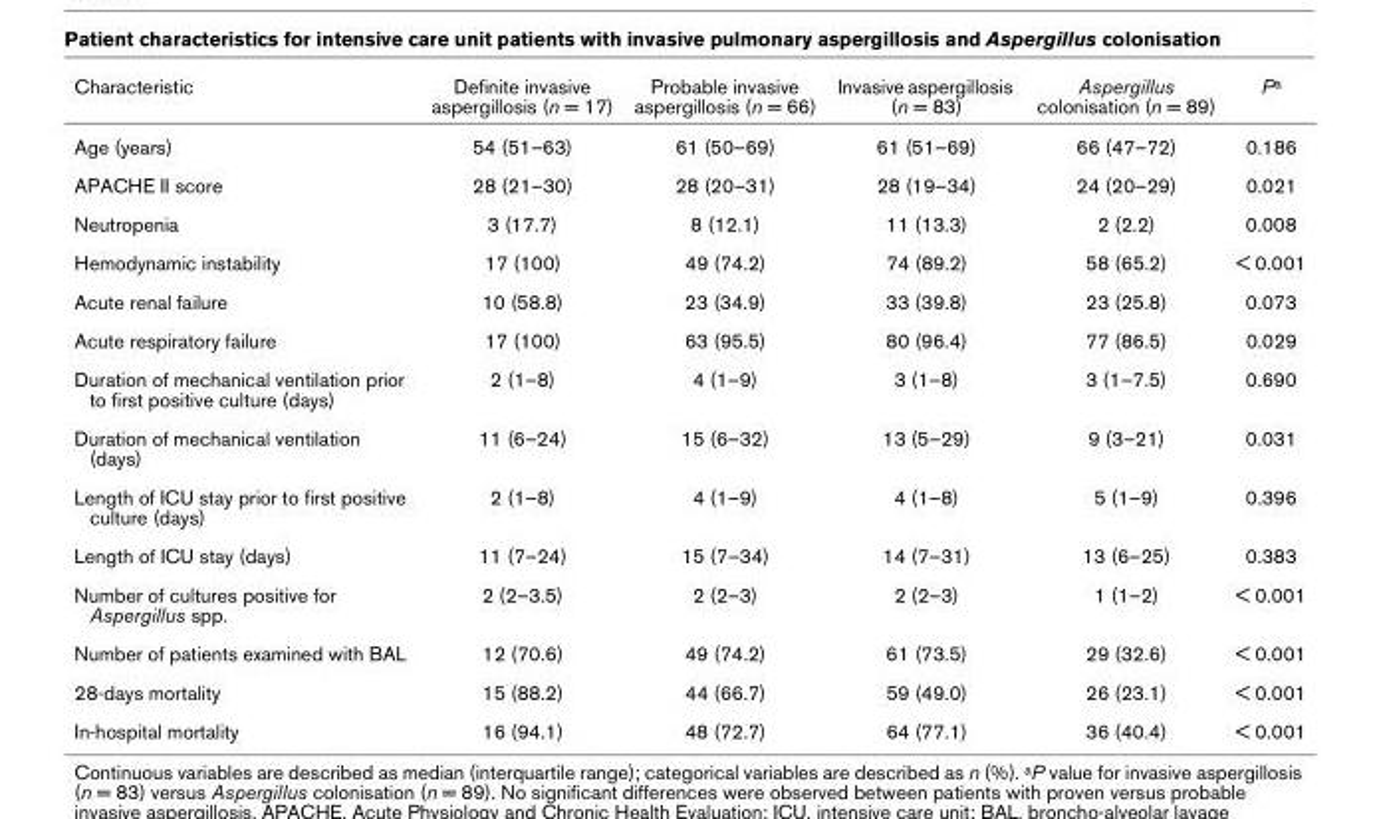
<table><thead><tr><td>Characteristic</td><td>Definite invasive aspergillosis (n = 17)</td><td>Probable invasive aspergillosis (n = 66)</td><td>Invasive aspergillosis (n = 83)</td><td>Aspergillus colonisation (n = 89)</td><td>Pa</td></tr></thead><tbody><tr><td>Age (years)</td><td>54 (51–63)</td><td>61 (50–69)</td><td>61 (51–69)</td><td>66 (47–72)</td><td>0.186</td></tr><tr><td>APACHE II score</td><td>28 (21–30)</td><td>28 (20–31)</td><td>28 (19–34)</td><td>24 (20–29)</td><td>0.021</td></tr><tr><td>Neutropenia</td><td>3 (17.7)</td><td>8 (12.1)</td><td>11 (13.3)</td><td>2 (2.2)</td><td>0.008</td></tr><tr><td>Hemodynamic instability</td><td>17 (100)</td><td>49 (74.2)</td><td>74 (89.2)</td><td>58 (65.2)</td><td>&lt; 0.001</td></tr><tr><td>Acute renal failure</td><td>10 (58.8)</td><td>23 (34.9)</td><td>33 (39.8)</td><td>23 (25.8)</td><td>0.073</td></tr><tr><td>Acute respiratory failure</td><td>17 (100)</td><td>63 (95.5)</td><td>80 (96.4)</td><td>77 (86.5)</td><td>0.029</td></tr><tr><td>Duration of mechanical ventilation prior to first positive culture (days)</td><td>2 (1–8)</td><td>4 (1–9)</td><td>3 (1–8)</td><td>3 (1–7.5)</td><td>0.690</td></tr><tr><td>Duration of mechanical ventilation (days)</td><td>11 (6–24)</td><td>15 (6–32)</td><td>13 (5–29)</td><td>9 (3–21)</td><td>0.031</td></tr><tr><td>Length of ICU stay prior to first positive culture (days)</td><td>2 (1–8)</td><td>4 (1–9)</td><td>4 (1–8)</td><td>5 (1–9)</td><td>0.396</td></tr><tr><td>Length of ICU stay (days)</td><td>11 (7–24)</td><td>15 (7–34)</td><td>14 (7–31)</td><td>13 (6–25)</td><td>0.383</td></tr><tr><td>Number of cultures positive for Aspergillus spp.</td><td>2 (2–3.5)</td><td>2 (2–3)</td><td>2 (2–3)</td><td>1 (1–2)</td><td>&lt; 0.001</td></tr><tr><td>Number of patients examined with BAL</td><td>12 (70.6)</td><td>49 (74.2)</td><td>61 (73.5)</td><td>29 (32.6)</td><td>&lt; 0.001</td></tr><tr><td>28-days mortality</td><td>15 (88.2)</td><td>44 (66.7)</td><td>59 (49.0)</td><td>26 (23.1)</td><td>&lt; 0.001</td></tr><tr><td>In-hospital mortality</td><td>16 (94.1)</td><td>48 (72.7)</td><td>64 (77.1)</td><td>36 (40.4)</td><td>&lt; 0.001</td></tr></tbody></table>